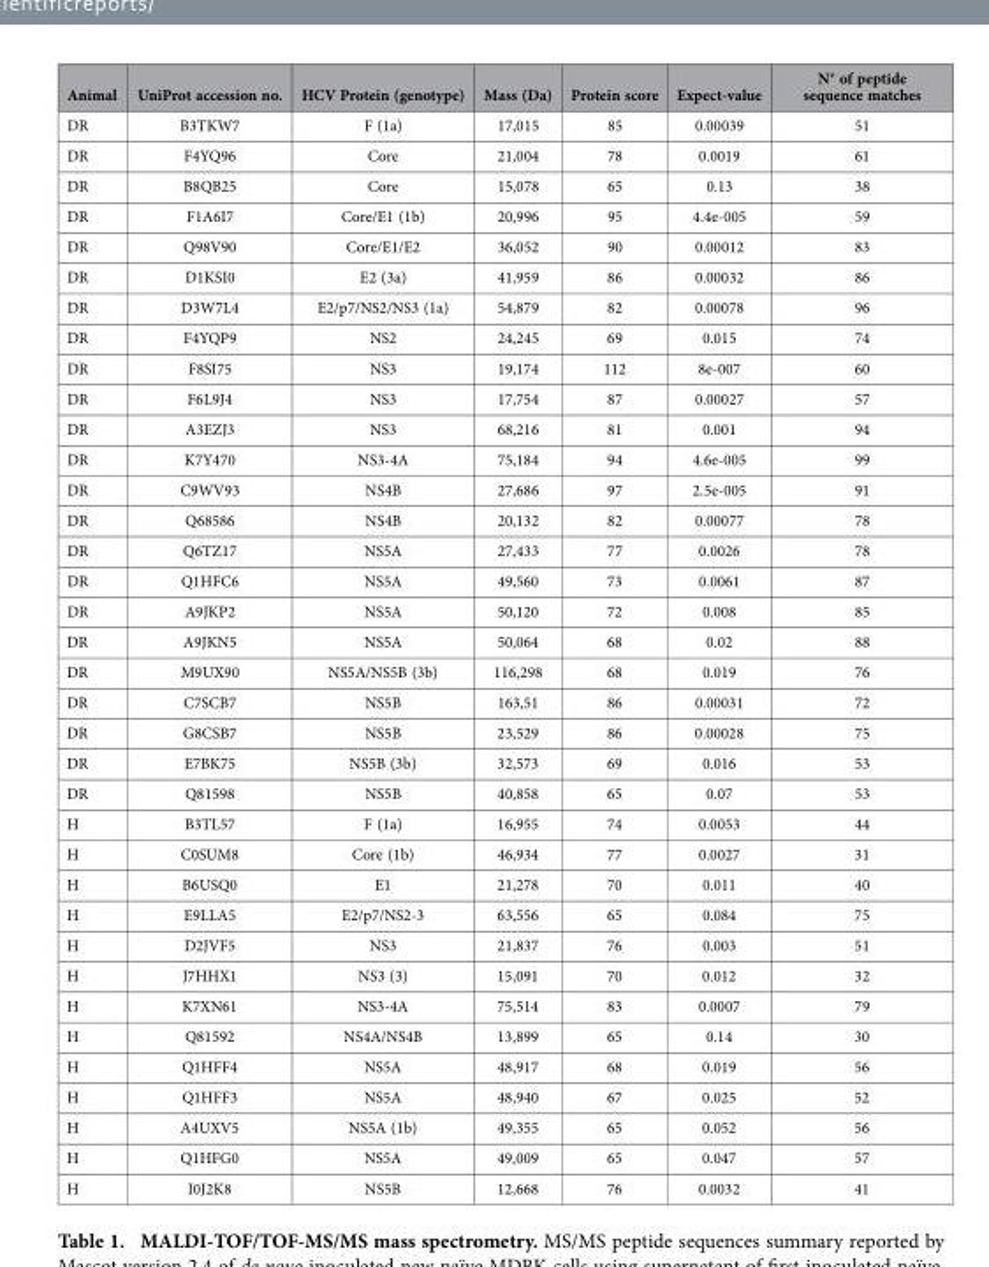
<table><thead><tr><td>Animal</td><td>UniProt accession no.</td><td>HCV Protein (genotype)</td><td>Mass (Da)</td><td>Protein score</td><td>Expect-value</td><td>N° of peptide sequence matches</td></tr></thead><tbody><tr><td>DR</td><td>B3TKW7</td><td>F (1a)</td><td>17,015</td><td>85</td><td>0.00039</td><td>51</td></tr><tr><td>DR</td><td>F4YQ96</td><td>Core</td><td>21,004</td><td>78</td><td>0.0019</td><td>61</td></tr><tr><td>DR</td><td>B8QB25</td><td>Core</td><td>15,078</td><td>65</td><td>0.13</td><td>38</td></tr><tr><td>DR</td><td>F1A6I7</td><td>Core/E1 (1b)</td><td>20,996</td><td>95</td><td>4.4e-005</td><td>59</td></tr><tr><td>DR</td><td>Q98V90</td><td>Core/E1/E2</td><td>36,052</td><td>90</td><td>0.00012</td><td>83</td></tr><tr><td>DR</td><td>D1KSI0</td><td>E2 (3a)</td><td>41,959</td><td>86</td><td>0.00032</td><td>86</td></tr><tr><td>DR</td><td>D3W7L4</td><td>E2/p7/NS2/NS3 (1a)</td><td>54,879</td><td>82</td><td>0.00078</td><td>96</td></tr><tr><td>DR</td><td>F4YQP9</td><td>NS2</td><td>24,245</td><td>69</td><td>0.015</td><td>74</td></tr><tr><td>DR</td><td>F8SI75</td><td>NS3</td><td>19,174</td><td>112</td><td>8e-007</td><td>60</td></tr><tr><td>DR</td><td>F6L9J4</td><td>NS3</td><td>17,754</td><td>87</td><td>0.00027</td><td>57</td></tr><tr><td>DR</td><td>A3EZJ3</td><td>NS3</td><td>68,216</td><td>81</td><td>0.001</td><td>94</td></tr><tr><td>DR</td><td>K7Y470</td><td>NS3-4A</td><td>75,184</td><td>94</td><td>4.6e-005</td><td>99</td></tr><tr><td>DR</td><td>C9WV93</td><td>NS4B</td><td>27,686</td><td>97</td><td>2.5e-005</td><td>91</td></tr><tr><td>DR</td><td>Q68586</td><td>NS4B</td><td>20,132</td><td>82</td><td>0.00077</td><td>78</td></tr><tr><td>DR</td><td>Q6TZ17</td><td>NS5A</td><td>27,433</td><td>77</td><td>0.0026</td><td>78</td></tr><tr><td>DR</td><td>Q1HFC6</td><td>NS5A</td><td>49,560</td><td>73</td><td>0.0061</td><td>87</td></tr><tr><td>DR</td><td>A9JKP2</td><td>NS5A</td><td>50,120</td><td>72</td><td>0.008</td><td>85</td></tr><tr><td>DR</td><td>A9JKN5</td><td>NS5A</td><td>50,064</td><td>68</td><td>0.02</td><td>88</td></tr><tr><td>DR</td><td>M9UX90</td><td>NS5A/NS5B (3b)</td><td>116,298</td><td>68</td><td>0.019</td><td>76</td></tr><tr><td>DR</td><td>C7SCB7</td><td>NS5B</td><td>163,51</td><td>86</td><td>0.00031</td><td>72</td></tr><tr><td>DR</td><td>G8CSB7</td><td>NS5B</td><td>23,529</td><td>86</td><td>0.00028</td><td>75</td></tr><tr><td>DR</td><td>E7BK75</td><td>NS5B (3b)</td><td>32,573</td><td>69</td><td>0.016</td><td>53</td></tr><tr><td>DR</td><td>Q81598</td><td>NS5B</td><td>40,858</td><td>65</td><td>0.07</td><td>53</td></tr><tr><td>H</td><td>B3TL57</td><td>F (1a)</td><td>16,955</td><td>74</td><td>0.0053</td><td>44</td></tr><tr><td>H</td><td>C0SUM8</td><td>Core (1b)</td><td>46,934</td><td>77</td><td>0.0027</td><td>31</td></tr><tr><td>H</td><td>B6USQ0</td><td>E1</td><td>21,278</td><td>70</td><td>0.011</td><td>40</td></tr><tr><td>H</td><td>E9LLA5</td><td>E2/p7/NS2-3</td><td>63,556</td><td>65</td><td>0.084</td><td>75</td></tr><tr><td>H</td><td>D2JVF5</td><td>NS3</td><td>21,837</td><td>76</td><td>0.003</td><td>51</td></tr><tr><td>H</td><td>J7HHX1</td><td>NS3 (3)</td><td>15,091</td><td>70</td><td>0.012</td><td>32</td></tr><tr><td>H</td><td>K7XN61</td><td>NS3-4A</td><td>75,514</td><td>83</td><td>0.0007</td><td>79</td></tr><tr><td>H</td><td>Q81592</td><td>NS4A/NS4B</td><td>13,899</td><td>65</td><td>0.14</td><td>30</td></tr><tr><td>H</td><td>Q1HFF4</td><td>NS5A</td><td>48,917</td><td>68</td><td>0.019</td><td>56</td></tr><tr><td>H</td><td>Q1HFF3</td><td>NS5A</td><td>48,940</td><td>67</td><td>0.025</td><td>52</td></tr><tr><td>H</td><td>A4UXV5</td><td>NS5A (1b)</td><td>49,355</td><td>65</td><td>0.052</td><td>56</td></tr><tr><td>H</td><td>Q1HFG0</td><td>NS5A</td><td>49,009</td><td>65</td><td>0.047</td><td>57</td></tr><tr><td>H</td><td>I0J2K8</td><td>NS5B</td><td>12,668</td><td>76</td><td>0.0032</td><td>41</td></tr></tbody></table>